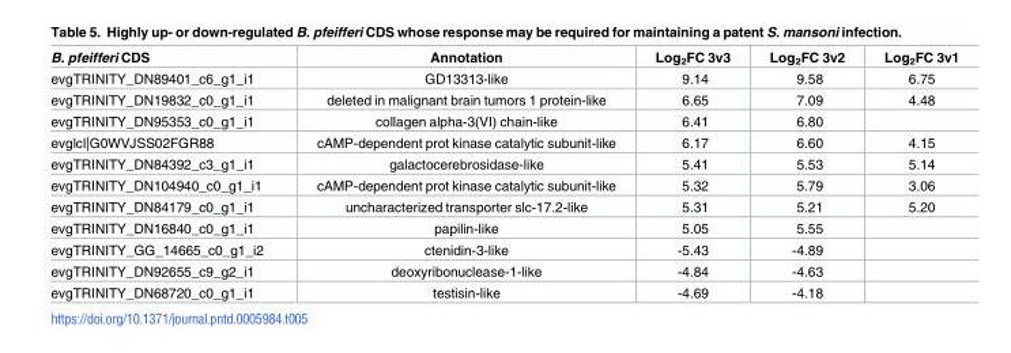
<table><thead><tr><td>B. pfeifferi CDS</td><td>Annotation</td><td>Log<sub>2</sub>FC 3v3</td><td>Log<sub>2</sub>FC 3v2</td><td>Log<sub>2</sub>FC 3v1</td></tr></thead><tbody><tr><td>evgTRINITY_DN89401_c6_g1_i1</td><td>GD13313-like</td><td>9.14</td><td>9.58</td><td>6.75</td></tr><tr><td>evgTRINITY_DN19832_c0_g1_i1</td><td>deleted in malignant brain tumors 1 protein-like</td><td>6.65</td><td>7.09</td><td>4.48</td></tr><tr><td>evgTRINITY_DN95353_c0_g1_i1</td><td>collagen alpha-3(VI) chain-like</td><td>6.41</td><td>6.80</td><td></td></tr><tr><td>evglcl|G0WVJSS02FGR88</td><td>cAMP-dependent prot kinase catalytic subunit-like</td><td>6.17</td><td>6.60</td><td>4.15</td></tr><tr><td>evgTRINITY_DN84392_c3_g1_i1</td><td>galactocerebrosidase-like</td><td>5.41</td><td>5.53</td><td>5.14</td></tr><tr><td>evgTRINITY_DN104940_c0_g1_i1</td><td>cAMP-dependent prot kinase catalytic subunit-like</td><td>5.32</td><td>5.79</td><td>3.06</td></tr><tr><td>evgTRINITY_DN84179_c0_g1_i1</td><td>uncharacterized transporter slc-17.2-like</td><td>5.31</td><td>5.21</td><td>5.20</td></tr><tr><td>evgTRINITY_DN16840_c0_g1_i1</td><td>papilin-like</td><td>5.05</td><td>5.55</td><td></td></tr><tr><td>evgTRINITY_GG_14665_c0_g1_i2</td><td>ctenidin-3-like</td><td>-5.43</td><td>-4.89</td><td></td></tr><tr><td>evgTRINITY_DN92655_c9_g2_i1</td><td>deoxyribonuclease-1-like</td><td>-4.84</td><td>-4.63</td><td></td></tr><tr><td>evgTRINITY_DN68720_c0_g1_i1</td><td>testisin-like</td><td>-4.69</td><td>-4.18</td><td></td></tr></tbody></table>